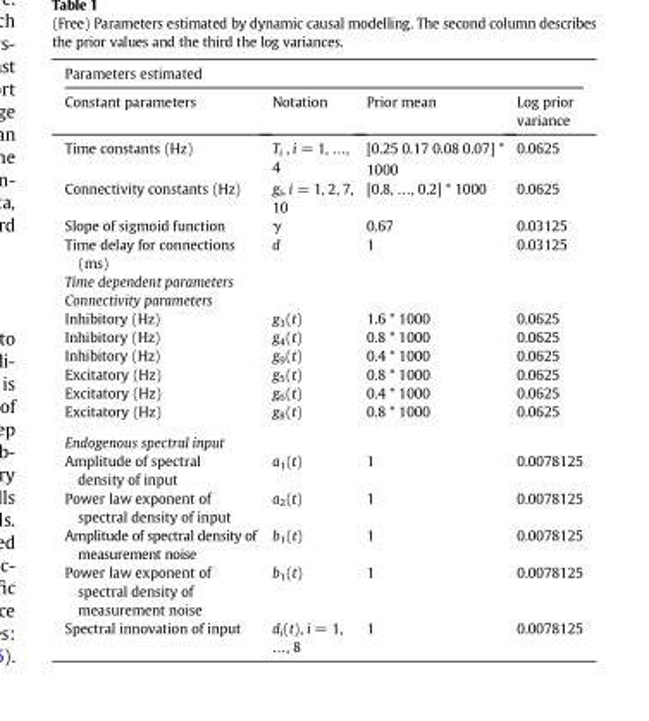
<table><thead><tr><td colspan="4">Parameters estimated</td></tr><tr><td>Constant parameters</td><td>Notation</td><td>Prior mean</td><td>Log prior variance</td></tr></thead><tbody><tr><td>Time constants (Hz)</td><td>T<sub>i</sub> , i = 1, …, 4</td><td>[0.25 0.17 0.08 0.07] * 1000</td><td>0.0625</td></tr><tr><td>Connectivity constants (Hz)</td><td>g<sub>i</sub>, i = 1, 2, 7, 10</td><td>[0.8, …, 0.2] * 1000</td><td>0.0625</td></tr><tr><td>Slope of sigmoid function</td><td>γ</td><td>0.67</td><td>0.03125</td></tr><tr><td>Time delay for connections (ms)</td><td>d</td><td>1</td><td>0.03125</td></tr><tr><td colspan="4">Time dependent parameters</td></tr><tr><td colspan="4">Connectivity parameters</td></tr><tr><td>Inhibitory (Hz)</td><td>g<sub>3</sub>(t)</td><td>1.6 * 1000</td><td>0.0625</td></tr><tr><td>Inhibitory (Hz)</td><td>g<sub>4</sub>(t)</td><td>0.8 * 1000</td><td>0.0625</td></tr><tr><td>Inhibitory (Hz)</td><td>g<sub>9</sub>(t)</td><td>0.4 * 1000</td><td>0.0625</td></tr><tr><td>Excitatory (Hz)</td><td>g<sub>5</sub>(t)</td><td>0.8 * 1000</td><td>0.0625</td></tr><tr><td>Excitatory (Hz)</td><td>g<sub>6</sub>(t)</td><td>0.4 * 1000</td><td>0.0625</td></tr><tr><td>Excitatory (Hz)</td><td>g<sub>8</sub>(t)</td><td>0.8 * 1000</td><td>0.0625</td></tr><tr><td colspan="4">Endogenous spectral input</td></tr><tr><td>Amplitude of spectral density of input</td><td>a<sub>1</sub>(t)</td><td>1</td><td>0.0078125</td></tr><tr><td>Power law exponent of spectral density of input</td><td>a<sub>2</sub>(t)</td><td>1</td><td>0.0078125</td></tr><tr><td>Amplitude of spectral density of measurement noise</td><td>b<sub>1</sub>(t)</td><td>1</td><td>0.0078125</td></tr><tr><td>Power law exponent of spectral density of measurement noise</td><td>b<sub>1</sub>(t)</td><td>1</td><td>0.0078125</td></tr><tr><td>Spectral innovation of input</td><td>d<sub>i</sub>(t), i = 1, …, 8</td><td>1</td><td>0.0078125</td></tr></tbody></table>